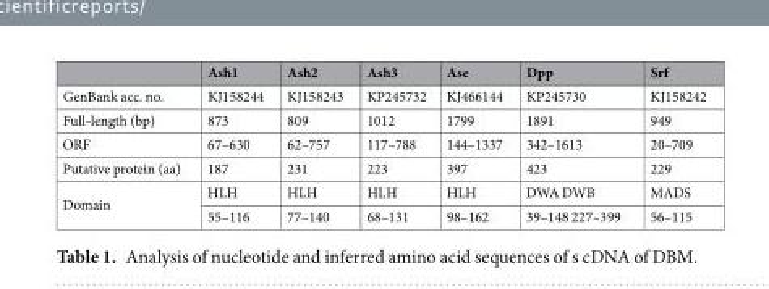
<table><thead><tr><td></td><td>Ash1</td><td>Ash2</td><td>Ash3</td><td>Ase</td><td>Dpp</td><td>Srf</td></tr></thead><tbody><tr><td>GenBank acc. no.</td><td>KJ158244</td><td>KJ158243</td><td>KP245732</td><td>KJ466144</td><td>KP245730</td><td>KJ158242</td></tr><tr><td>Full-length (bp)</td><td>873</td><td>809</td><td>1012</td><td>1799</td><td>1891</td><td>949</td></tr><tr><td>ORF</td><td>67–630</td><td>62–757</td><td>117–788</td><td>144–1337</td><td>342–1613</td><td>20–709</td></tr><tr><td>Putative protein (aa)</td><td>187</td><td>231</td><td>223</td><td>397</td><td>423</td><td>229</td></tr><tr><td rowspan="2">Domain</td><td>HLH</td><td>HLH</td><td>HLH</td><td>HLH</td><td>DWA DWB</td><td>MADS</td></tr><tr><td>55–116</td><td>77–140</td><td>68–131</td><td>98–162</td><td>39–148 227–399</td><td>56–115</td></tr></tbody></table>